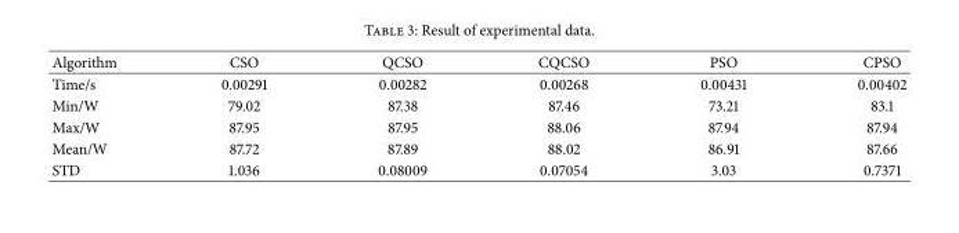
<table><thead><tr><td>Algorithm</td><td>CSO</td><td>QCSO</td><td>CQCSO</td><td>PSO</td><td>CPSO</td></tr></thead><tbody><tr><td>Time/s</td><td>0.00291</td><td>0.00282</td><td>0.00268</td><td>0.00431</td><td>0.00402</td></tr><tr><td>Min/W</td><td>79.02</td><td>87.38</td><td>87.46</td><td>73.21</td><td>83.1</td></tr><tr><td>Max/W</td><td>87.95</td><td>87.95</td><td>88.06</td><td>87.94</td><td>87.94</td></tr><tr><td>Mean/W</td><td>87.72</td><td>87.89</td><td>88.02</td><td>86.91</td><td>87.66</td></tr><tr><td>STD</td><td>1.036</td><td>0.08009</td><td>0.07054</td><td>3.03</td><td>0.7371</td></tr></tbody></table>